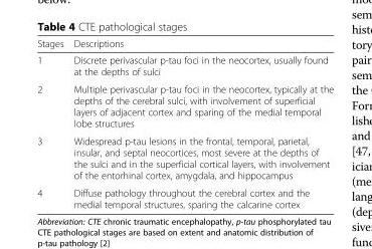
<table><thead><tr><td>Stages</td><td>Descriptions</td></tr></thead><tbody><tr><td>1</td><td>Discrete perivascular p-tau foci in the neocortex, usually found at the depths of sulci</td></tr><tr><td>2</td><td>Multiple perivascular p-tau foci in the neocortex, typically at the depths of the cerebral sulci, with involvement of superficial layers of adjacent cortex and sparing of the medial temporal lobe structures</td></tr><tr><td>3</td><td>Widespread p-tau lesions in the frontal, temporal, parietal, insular, and septal neocortices, most severe at the depths of the sulci and in the superficial cortical layers, with involvement of the entorhinal cortex, amygdala, and hippocampus</td></tr><tr><td>4</td><td>Diffuse pathology throughout the cerebral cortex and the medial temporal structures, sparing the calcarine cortex</td></tr></tbody></table>